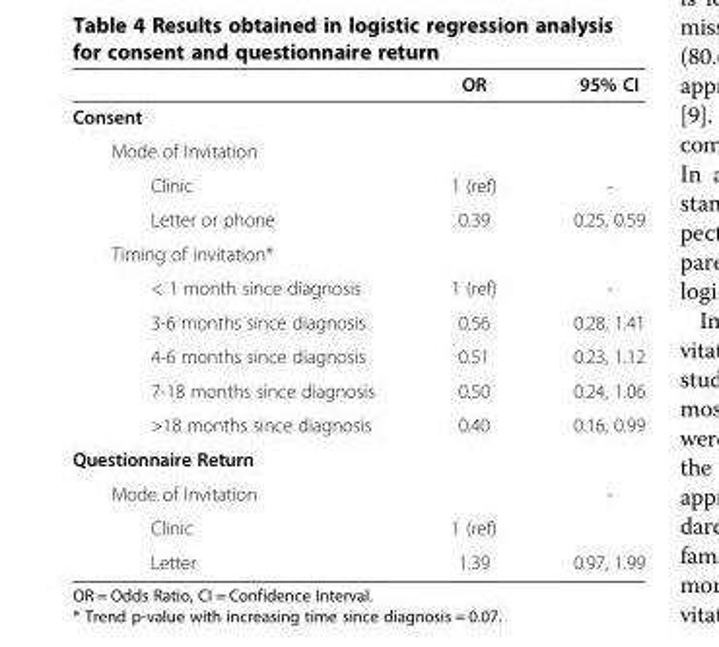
<table><thead><tr><td></td><td>OR</td><td>95% CI</td></tr></thead><tbody><tr><td colspan="3">Consent</td></tr><tr><td colspan="3">Mode of Invitation</td></tr><tr><td>Clinic</td><td>1 (ref)</td><td>-</td></tr><tr><td>Letter or phone</td><td>0.39</td><td>0.25, 0.59</td></tr><tr><td colspan="3">Timing of invitation*</td></tr><tr><td>&lt; 1 month since diagnosis</td><td>1 (ref)</td><td>-</td></tr><tr><td>3-6 months since diagnosis</td><td>0.56</td><td>0.28, 1.41</td></tr><tr><td>4-6 months since diagnosis</td><td>0.51</td><td>0.23, 1.12</td></tr><tr><td>7-18 months since diagnosis</td><td>0.50</td><td>0.24, 1.06</td></tr><tr><td>&gt;18 months since diagnosis</td><td>0.40</td><td>0.16, 0.99</td></tr><tr><td colspan="3">Questionnaire Return</td></tr><tr><td>Mode of Invitation</td><td></td><td>-</td></tr><tr><td>Clinic</td><td>1 (ref)</td><td></td></tr><tr><td>Letter</td><td>1.39</td><td>0.97, 1.99</td></tr></tbody></table>